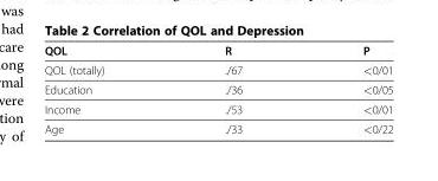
<table><thead><tr><td>QOL</td><td>R</td><td>P</td></tr></thead><tbody><tr><td>QOL (totally)</td><td>./67</td><td>&lt;0/01</td></tr><tr><td>Education</td><td>./36</td><td>&lt;0/05</td></tr><tr><td>Income</td><td>./53</td><td>&lt;0/01</td></tr><tr><td>Age</td><td>./33</td><td>&lt;0/22</td></tr></tbody></table>